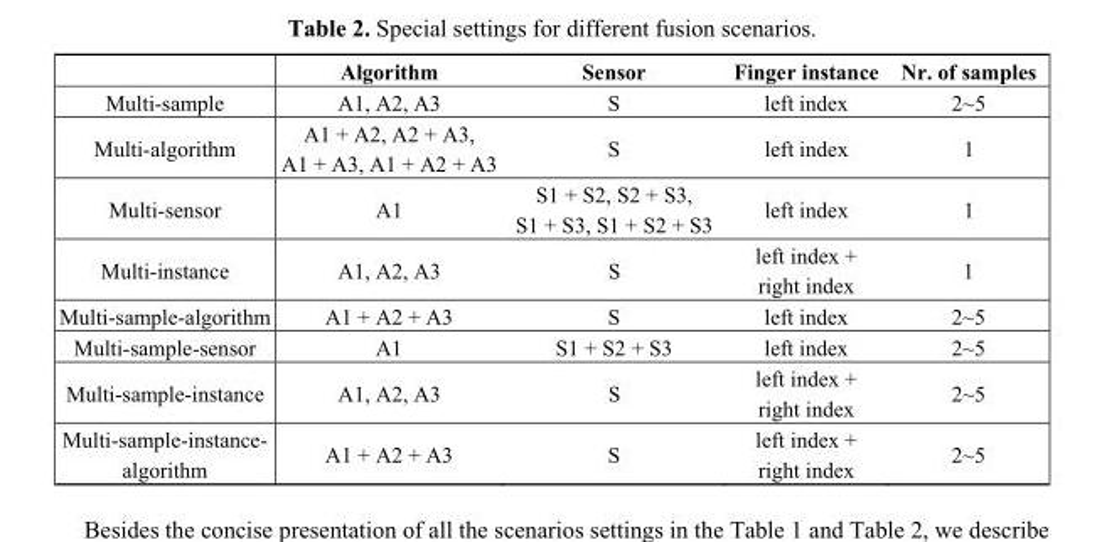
<table><thead><tr><td></td><td>Algorithm</td><td>Sensor</td><td>Finger instance</td><td>Nr. of samples</td></tr></thead><tbody><tr><td>Multi-sample</td><td>A1, A2, A3</td><td>S</td><td>left index</td><td>2~5</td></tr><tr><td>Multi-algorithm</td><td>A1 + A2, A2 + A3, A1 + A3, A1 + A2 + A3</td><td>S</td><td>left index</td><td>1</td></tr><tr><td>Multi-sensor</td><td>A1</td><td>S1 + S2, S2 + S3, S1 + S3, S1 + S2 + S3</td><td>left index</td><td>1</td></tr><tr><td>Multi-instance</td><td>A1, A2, A3</td><td>S</td><td>left index + right index</td><td>1</td></tr><tr><td>Multi-sample-algorithm</td><td>A1 + A2 + A3</td><td>S</td><td>left index</td><td>2~5</td></tr><tr><td>Multi-sample-sensor</td><td>A1</td><td>S1 + S2 + S3</td><td>left index</td><td>2~5</td></tr><tr><td>Multi-sample-instance</td><td>A1, A2, A3</td><td>S</td><td>left index + right index</td><td>2~5</td></tr><tr><td>Multi-sample-instance- algorithm</td><td>A1 + A2 + A3</td><td>S</td><td>left index + right index</td><td>2~5</td></tr></tbody></table>